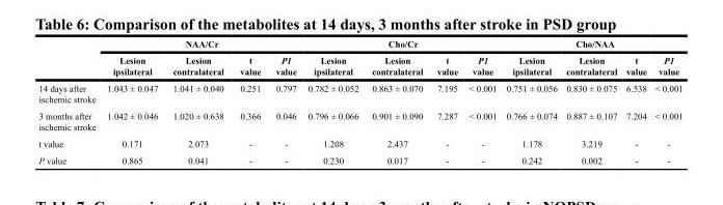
<table><thead><tr><td rowspan="2"></td><td colspan="4">NAA/Cr</td><td colspan="4">Cho/Cr</td><td colspan="4">Cho/NAA</td></tr><tr><td>Lesion ipsilateral</td><td>Lesion contralateral</td><td>t value</td><td>P1 value</td><td>Lesion ipsilateral</td><td>Lesion contralateral</td><td>t value</td><td>P1 value</td><td>Lesion ipsilateral</td><td>Lesion contralateral</td><td>t value</td><td>P1 value</td></tr></thead><tbody><tr><td>14 days after ischemic stroke</td><td>1.043 ± 0.047</td><td>1.041 ± 0.040</td><td>0.251</td><td>0.797</td><td>0.782 ± 0.052</td><td>0.863 ± 0.070</td><td>7.195</td><td>&lt; 0.001</td><td>0.751 ± 0.056</td><td>0.830 ± 0.075</td><td>6.538</td><td>&lt; 0.001</td></tr><tr><td>3 months after ischemic stroke</td><td>1.042 ± 0.046</td><td>1.020 ± 0.638</td><td>0.366</td><td>0.046</td><td>0.796 ± 0.066</td><td>0.901 ± 0.090</td><td>7.287</td><td>&lt; 0.001</td><td>0.766 ± 0.074</td><td>0.887 ± 0.107</td><td>7.204</td><td>&lt; 0.001</td></tr><tr><td>t value</td><td>0.171</td><td>2.073</td><td>-</td><td>-</td><td>1.208</td><td>2.437</td><td>-</td><td>-</td><td>1.178</td><td>3.219</td><td>-</td><td>-</td></tr><tr><td>P value</td><td>0.865</td><td>0.041</td><td>-</td><td>-</td><td>0.230</td><td>0.017</td><td>-</td><td>-</td><td>0.242</td><td>0.002</td><td>-</td><td>-</td></tr></tbody></table>